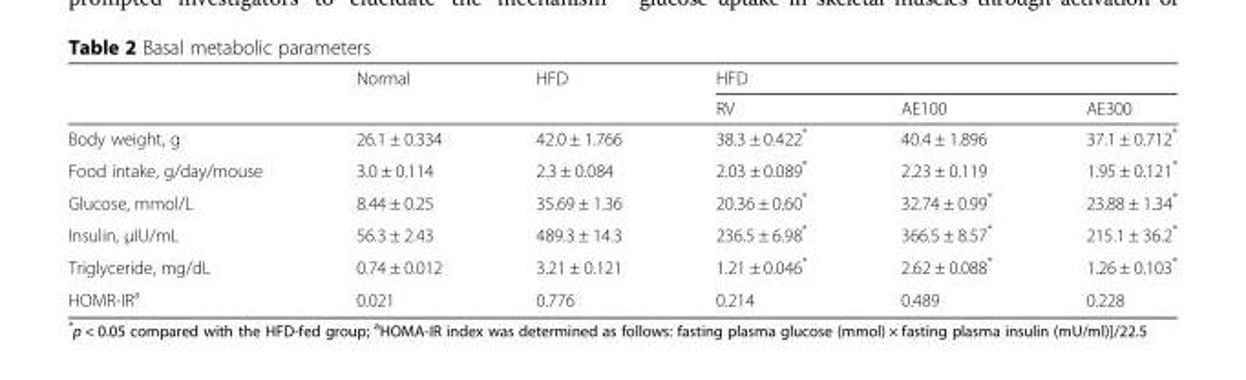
<table><thead><tr><td rowspan="2"></td><td rowspan="2">Normal</td><td rowspan="2">HFD</td><td colspan="3">HFD</td></tr><tr><td>RV</td><td>AE100</td><td>AE300</td></tr></thead><tbody><tr><td>Body weight, g</td><td>26.1 ± 0.334</td><td>42.0 ± 1.766</td><td>38.3 ± 0.422*</td><td>40.4 ± 1.896</td><td>37.1 ± 0.712*</td></tr><tr><td>Food intake, g/day/mouse</td><td>3.0 ± 0.114</td><td>2.3 ± 0.084</td><td>2.03 ± 0.089*</td><td>2.23 ± 0.119</td><td>1.95 ± 0.121*</td></tr><tr><td>Glucose, mmol/L</td><td>8.44 ± 0.25</td><td>35.69 ± 1.36</td><td>20.36 ± 0.60*</td><td>32.74 ± 0.99*</td><td>23.88 ± 1.34*</td></tr><tr><td>Insulin, μIU/mL</td><td>56.3 ± 2.43</td><td>489.3 ± 14.3</td><td>236.5 ± 6.98*</td><td>366.5 ± 8.57*</td><td>215.1 ± 36.2*</td></tr><tr><td>Triglyceride, mg/dL</td><td>0.74 ± 0.012</td><td>3.21 ± 0.121</td><td>1.21 ± 0.046*</td><td>2.62 ± 0.088*</td><td>1.26 ± 0.103*</td></tr><tr><td>HOMR-IR<sup>a</sup></td><td>0.021</td><td>0.776</td><td>0.214</td><td>0.489</td><td>0.228</td></tr></tbody></table>